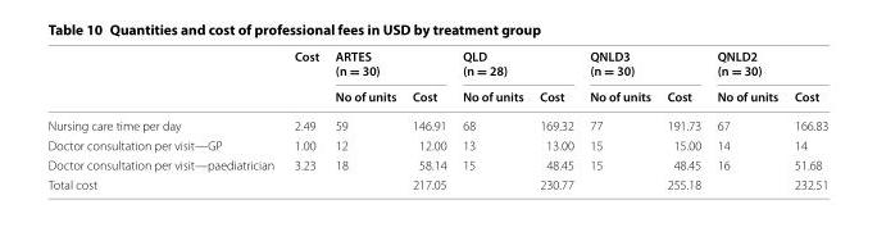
<table><thead><tr><td rowspan="2"></td><td rowspan="2">Cost</td><td colspan="2">ARTES (n = 30)</td><td colspan="2">QLD (n = 28)</td><td colspan="2">QNLD3 (n = 30)</td><td colspan="2">QNLD2 (n = 30)</td></tr><tr><td>No of units</td><td>Cost</td><td>No of units</td><td>Cost</td><td>No of units</td><td>Cost</td><td>No of units</td><td>Cost</td></tr></thead><tbody><tr><td>Nursing care time per day</td><td>2.49</td><td>59</td><td>146.91</td><td>68</td><td>169.32</td><td>77</td><td>191.73</td><td>67</td><td>166.83</td></tr><tr><td>Doctor consultation per visit—GP</td><td>1.00</td><td>12</td><td>12.00</td><td>13</td><td>13.00</td><td>15</td><td>15.00</td><td>14</td><td>14</td></tr><tr><td>Doctor consultation per visit—paediatrician</td><td>3.23</td><td>18</td><td>58.14</td><td>15</td><td>48.45</td><td>15</td><td>48.45</td><td>16</td><td>51.68</td></tr><tr><td>Total cost</td><td></td><td></td><td>217.05</td><td></td><td>230.77</td><td></td><td>255.18</td><td></td><td>232.51</td></tr></tbody></table>